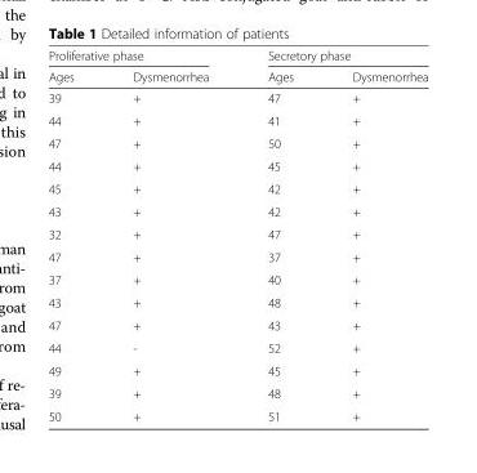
<table><thead><tr><td colspan="2">Proliferative phase</td><td colspan="2">Secretory phase</td></tr><tr><td>Ages</td><td>Dysmenorrhea</td><td>Ages</td><td>Dysmenorrhea</td></tr></thead><tbody><tr><td>39</td><td>+</td><td>47</td><td>+</td></tr><tr><td>44</td><td>+</td><td>41</td><td>+</td></tr><tr><td>47</td><td>+</td><td>50</td><td>+</td></tr><tr><td>44</td><td>+</td><td>45</td><td>+</td></tr><tr><td>45</td><td>+</td><td>42</td><td>+</td></tr><tr><td>43</td><td>+</td><td>42</td><td>+</td></tr><tr><td>32</td><td>+</td><td>47</td><td>+</td></tr><tr><td>47</td><td>+</td><td>37</td><td>+</td></tr><tr><td>37</td><td>+</td><td>40</td><td>+</td></tr><tr><td>43</td><td>+</td><td>48</td><td>+</td></tr><tr><td>47</td><td>+</td><td>43</td><td>+</td></tr><tr><td>44</td><td>-</td><td>52</td><td>+</td></tr><tr><td>49</td><td>+</td><td>45</td><td>+</td></tr><tr><td>39</td><td>+</td><td>48</td><td>+</td></tr><tr><td>50</td><td>+</td><td>51</td><td>+</td></tr></tbody></table>